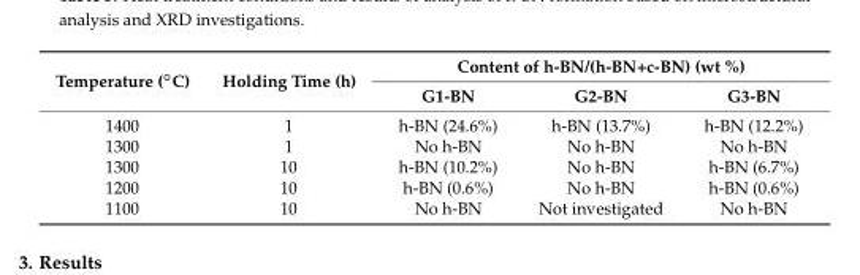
<table><thead><tr><td rowspan="2">Temperature (◦C)</td><td rowspan="2">Holding Time (h)</td><td colspan="3">Content of h-BN/(h-BN+c-BN) (wt %)</td></tr><tr><td>G1-BN</td><td>G2-BN</td><td>G3-BN</td></tr></thead><tbody><tr><td>1400</td><td>1</td><td>h-BN (24.6%)</td><td>h-BN (13.7%)</td><td>h-BN (12.2%)</td></tr><tr><td>1300</td><td>1</td><td>No h-BN</td><td>No h-BN</td><td>No h-BN</td></tr><tr><td>1300</td><td>10</td><td>h-BN (10.2%)</td><td>No h-BN</td><td>h-BN (6.7%)</td></tr><tr><td>1200</td><td>10</td><td>h-BN (0.6%)</td><td>No h-BN</td><td>h-BN (0.6%)</td></tr><tr><td>1100</td><td>10</td><td>No h-BN</td><td>Not investigated</td><td>No h-BN</td></tr></tbody></table>